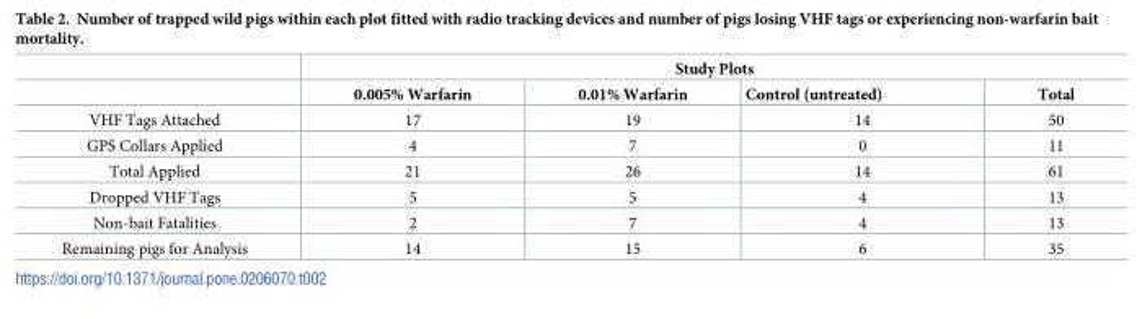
<table><thead><tr><td rowspan="2"></td><td colspan="4">Study Plots</td></tr><tr><td>0.005% Warfarin</td><td>0.01% Warfarin</td><td>Control (untreated)</td><td>Total</td></tr></thead><tbody><tr><td>VHF Tags Attached</td><td>17</td><td>19</td><td>14</td><td>50</td></tr><tr><td>GPS Collars Applied</td><td>4</td><td>7</td><td>0</td><td>11</td></tr><tr><td>Total Applied</td><td>21</td><td>26</td><td>14</td><td>61</td></tr><tr><td>Dropped VHF Tags</td><td>5</td><td>5</td><td>4</td><td>13</td></tr><tr><td>Non-bait Fatalities</td><td>2</td><td>7</td><td>4</td><td>13</td></tr><tr><td>Remaining pigs for Analysis</td><td>14</td><td>15</td><td>6</td><td>35</td></tr></tbody></table>